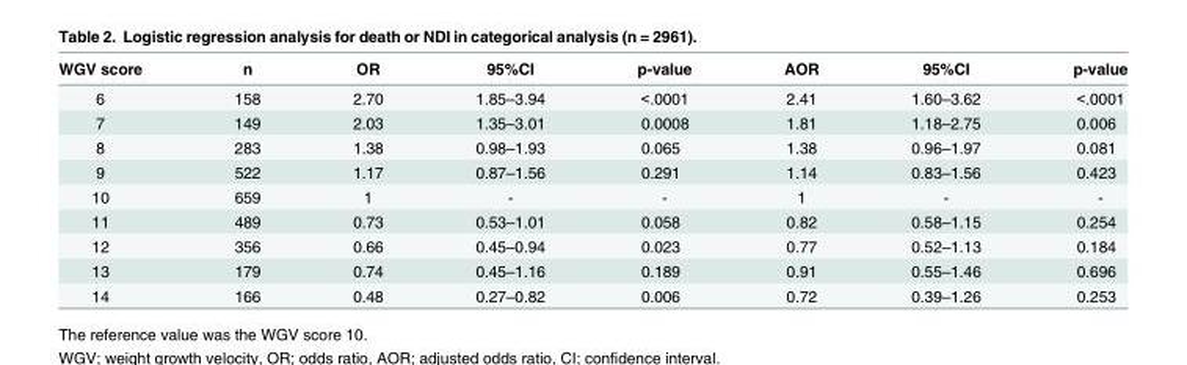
<table><thead><tr><td>WGV score</td><td>n</td><td>OR</td><td>95%CI</td><td>p-value</td><td>AOR</td><td>95%CI</td><td>p-value</td></tr></thead><tbody><tr><td>6</td><td>158</td><td>2.70</td><td>1.85–3.94</td><td>&lt;.0001</td><td>2.41</td><td>1.60–3.62</td><td>&lt;.0001</td></tr><tr><td>7</td><td>149</td><td>2.03</td><td>1.35–3.01</td><td>0.0008</td><td>1.81</td><td>1.18–2.75</td><td>0.006</td></tr><tr><td>8</td><td>283</td><td>1.38</td><td>0.98–1.93</td><td>0.065</td><td>1.38</td><td>0.96–1.97</td><td>0.081</td></tr><tr><td>9</td><td>522</td><td>1.17</td><td>0.87–1.56</td><td>0.291</td><td>1.14</td><td>0.83–1.56</td><td>0.423</td></tr><tr><td>10</td><td>659</td><td>1</td><td>-</td><td>-</td><td>1</td><td>-</td><td>-</td></tr><tr><td>11</td><td>489</td><td>0.73</td><td>0.53–1.01</td><td>0.058</td><td>0.82</td><td>0.58–1.15</td><td>0.254</td></tr><tr><td>12</td><td>356</td><td>0.66</td><td>0.45–0.94</td><td>0.023</td><td>0.77</td><td>0.52–1.13</td><td>0.184</td></tr><tr><td>13</td><td>179</td><td>0.74</td><td>0.45–1.16</td><td>0.189</td><td>0.91</td><td>0.55–1.46</td><td>0.696</td></tr><tr><td>14</td><td>166</td><td>0.48</td><td>0.27–0.82</td><td>0.006</td><td>0.72</td><td>0.39–1.26</td><td>0.253</td></tr></tbody></table>